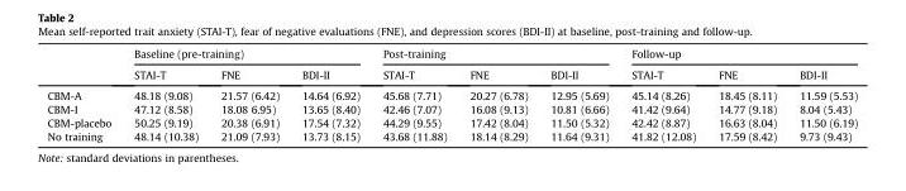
<table><thead><tr><td rowspan="2"></td><td colspan="3">Baseline (pre-training)</td><td colspan="3">Post-training</td><td colspan="3">Follow-up</td></tr><tr><td>STAI-T</td><td>FNE</td><td>BDI-II</td><td>STAI-T</td><td>FNE</td><td>BDI-II</td><td>STAI-T</td><td>FNE</td><td>BDI-II</td></tr></thead><tbody><tr><td>CBM-A</td><td>48.18 (9.08)</td><td>21.57 (6.42)</td><td>14.64 (6.92)</td><td>45.68 (7.71)</td><td>20.27 (6.78)</td><td>12.95 (5.69)</td><td>45.14 (8.26)</td><td>18.45 (8.11)</td><td>11.59 (5.53)</td></tr><tr><td>CBM-I</td><td>47.12 (8.58)</td><td>18.08 6.95)</td><td>13.65 (8.40)</td><td>42.46 (7.07)</td><td>16.08 (9.13)</td><td>10.81 (6.66)</td><td>41.42 (9.64)</td><td>14.77 (9.18)</td><td>8.04 (5.43)</td></tr><tr><td>CBM-placebo</td><td>50.25 (9.19)</td><td>20.38 (6.91)</td><td>17.54 (7.32)</td><td>44.29 (9.55)</td><td>17.42 (8.04)</td><td>11.50 (5.32)</td><td>42.42 (8.87)</td><td>16.63 (8.04)</td><td>11.50 (6.19)</td></tr><tr><td>No training</td><td>48.14 (10.38)</td><td>21.09 (7.93)</td><td>13.73 (8.15)</td><td>43.68 (11.88)</td><td>18.14 (8.29)</td><td>11.64 (9.31)</td><td>41.82 (12.08)</td><td>17.59 (8.42)</td><td>9.73 (9.43)</td></tr></tbody></table>